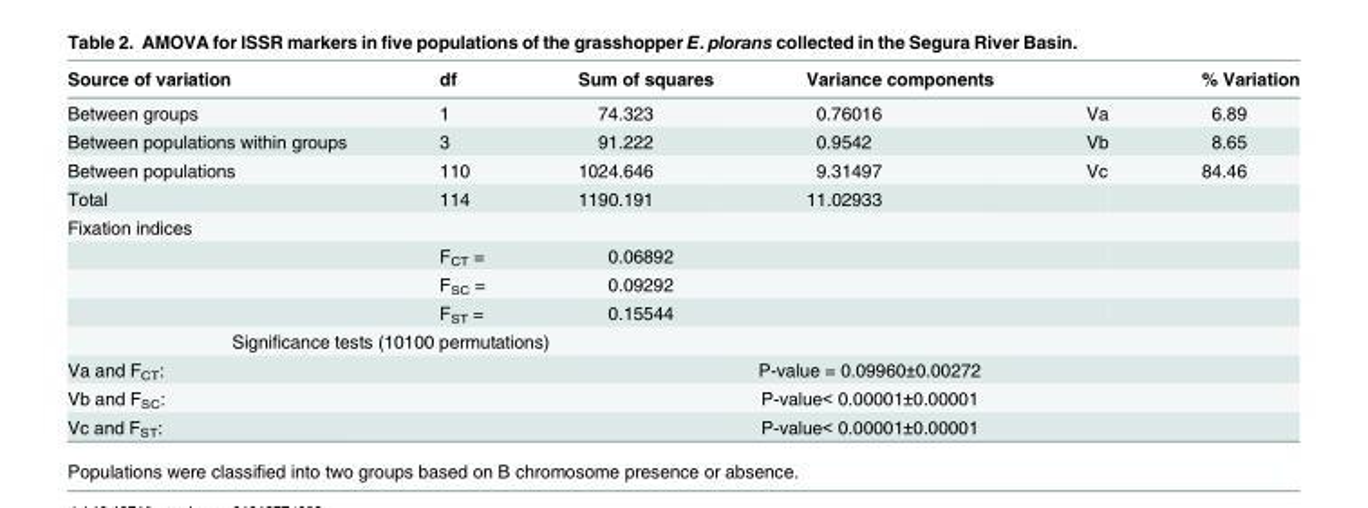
<table><thead><tr><td>Source of variation</td><td>df</td><td>Sum of squares</td><td>Variance components</td><td></td><td>% Variation</td></tr></thead><tbody><tr><td>Between groups</td><td>1</td><td>74.323</td><td>0.76016</td><td>Va</td><td>6.89</td></tr><tr><td>Between populations within groups</td><td>3</td><td>91.222</td><td>0.9542</td><td>Vb</td><td>8.65</td></tr><tr><td>Between populations</td><td>110</td><td>1024.646</td><td>9.31497</td><td>Vc</td><td>84.46</td></tr><tr><td>Total</td><td>114</td><td>1190.191</td><td>11.02933</td><td></td><td></td></tr><tr><td colspan="6">Fixation indices</td></tr><tr><td></td><td>F<sub>CT</sub> =</td><td>0.06892</td><td></td><td></td><td></td></tr><tr><td></td><td>F<sub>SC</sub> =</td><td>0.09292</td><td></td><td></td><td></td></tr><tr><td></td><td>F<sub>ST</sub> =</td><td>0.15544</td><td></td><td></td><td></td></tr><tr><td colspan="6">Significance tests (10100 permutations)</td></tr><tr><td>Va and F<sub>CT</sub>:</td><td colspan="5">P-value = 0.09960±0.00272</td></tr><tr><td>Vb and F<sub>SC</sub>:</td><td colspan="5">P-value&lt; 0.00001±0.00001</td></tr><tr><td>Vc and F<sub>ST</sub>:</td><td colspan="5">P-value&lt; 0.00001±0.00001</td></tr></tbody></table>